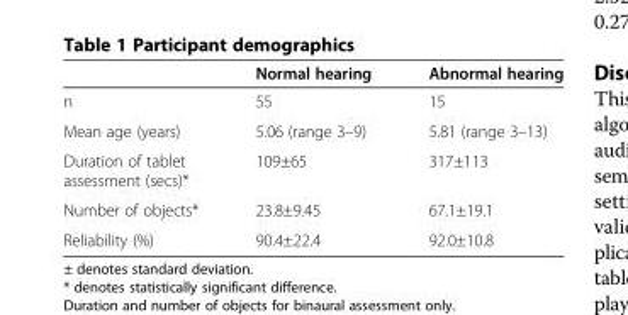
<table><thead><tr><td></td><td>Normal hearing</td><td>Abnormal hearing</td></tr></thead><tbody><tr><td>n</td><td>55</td><td>15</td></tr><tr><td>Mean age (years)</td><td>5.06 (range 3–9)</td><td>5.81 (range 3–13)</td></tr><tr><td>Duration of tablet assessment (secs)*</td><td>109±65</td><td>317±113</td></tr><tr><td>Number of objects*</td><td>23.8±9.45</td><td>67.1±19.1</td></tr><tr><td>Reliability (%)</td><td>90.4±22.4</td><td>92.0±10.8</td></tr></tbody></table>